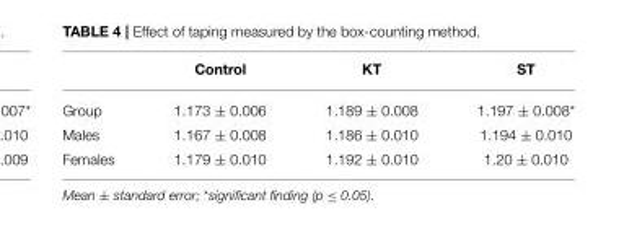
<table><thead><tr><td></td><td>Control</td><td>KT</td><td>ST</td></tr></thead><tbody><tr><td>Group</td><td>1.173 ± 0.006</td><td>1.189 ± 0.008</td><td>1.197 ± 0.008*</td></tr><tr><td>Males</td><td>1.167 ± 0.008</td><td>1.186 ± 0.010</td><td>1.194 ± 0.010</td></tr><tr><td>Females</td><td>1.179 ± 0.010</td><td>1.192 ± 0.010</td><td>1.20 ± 0.010</td></tr></tbody></table>